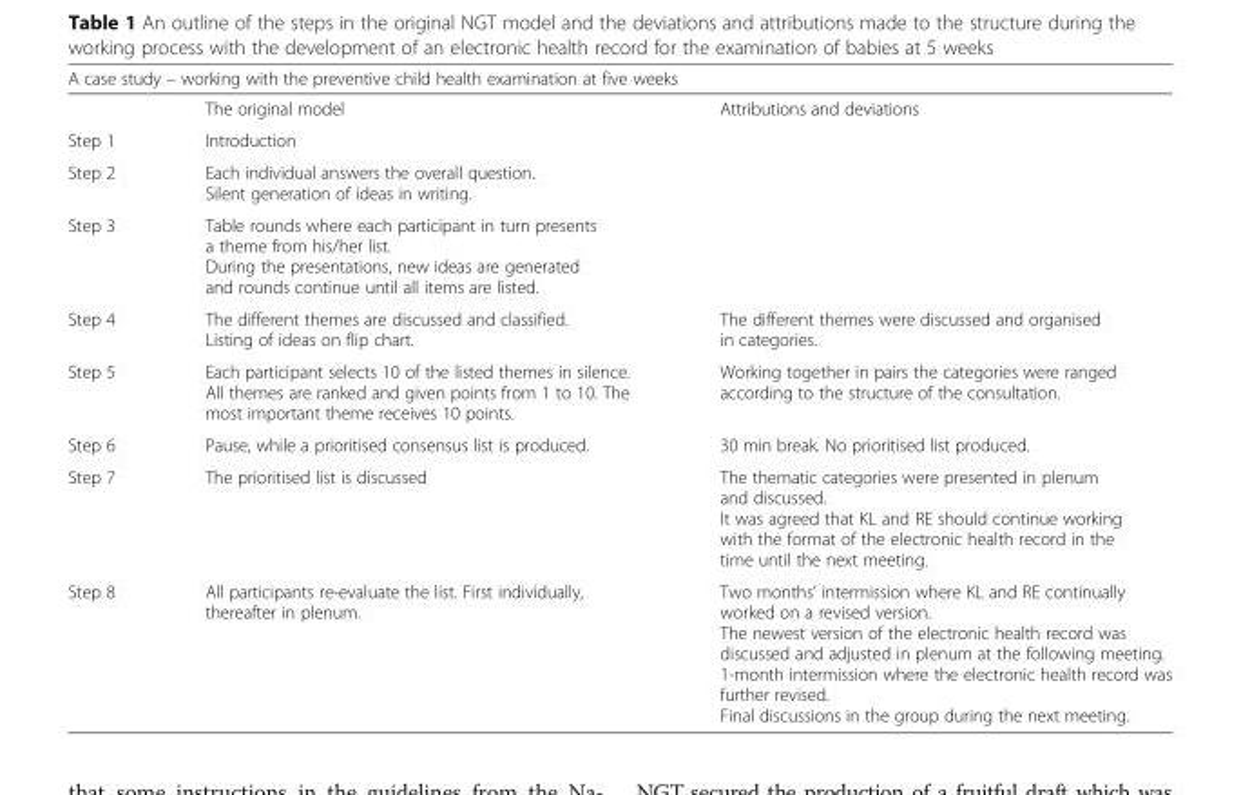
<table><thead><tr><td colspan="3">A case study – working with the preventive child health examination at five weeks</td></tr><tr><td></td><td>The original model</td><td>Attributions and deviations</td></tr></thead><tbody><tr><td>Step 1</td><td>Introduction</td><td></td></tr><tr><td>Step 2</td><td>Each individual answers the overall question. Silent generation of ideas in writing.</td><td></td></tr><tr><td>Step 3</td><td>Table rounds where each participant in turn presents a theme from his/her list. During the presentations, new ideas are generated and rounds continue until all items are listed.</td><td></td></tr><tr><td>Step 4</td><td>The different themes are discussed and classified. Listing of ideas on flip chart.</td><td>The different themes were discussed and organised in categories.</td></tr><tr><td>Step 5</td><td>Each participant selects 10 of the listed themes in silence. All themes are ranked and given points from 1 to 10. The most important theme receives 10 points.</td><td>Working together in pairs the categories were ranged according to the structure of the consultation.</td></tr><tr><td>Step 6</td><td>Pause, while a prioritised consensus list is produced.</td><td>30 min break. No prioritised list produced.</td></tr><tr><td>Step 7</td><td>The prioritised list is discussed</td><td>The thematic categories were presented in plenum and discussed. It was agreed that KL and RE should continue working with the format of the electronic health record in the time until the next meeting.</td></tr><tr><td>Step 8</td><td>All participants re-evaluate the list. First individually, thereafter in plenum.</td><td>Two months’ intermission where KL and RE continually worked on a revised version. The newest version of the electronic health record was discussed and adjusted in plenum at the following meeting. 1-month intermission where the electronic health record was further revised. Final discussions in the group during the next meeting.</td></tr></tbody></table>